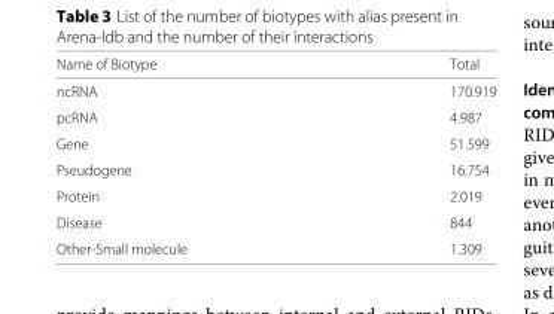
<table><thead><tr><td>Name of Biotype</td><td>Total</td></tr></thead><tbody><tr><td>ncRNA</td><td>170.919</td></tr><tr><td>pcRNA</td><td>4.987</td></tr><tr><td>Gene</td><td>51.599</td></tr><tr><td>Pseudogene</td><td>16.754</td></tr><tr><td>Protein</td><td>2.019</td></tr><tr><td>Disease</td><td>844</td></tr><tr><td>Other-Small molecule</td><td>1.309</td></tr></tbody></table>